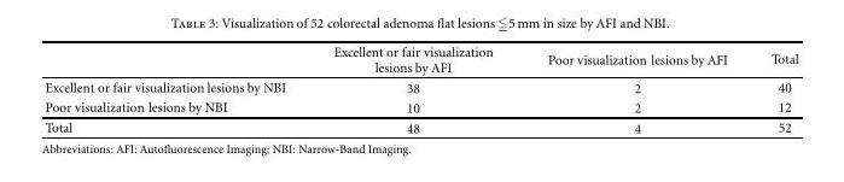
<table><thead><tr><td></td><td>Excellent or fair visualization lesions by AFI</td><td>Poor visualization lesions by AFI</td><td>Total</td></tr></thead><tbody><tr><td>Excellent or fair visualization lesions by NBI</td><td>38</td><td>2</td><td>40</td></tr><tr><td>Poor visualization lesions by NBI</td><td>10</td><td>2</td><td>12</td></tr><tr><td>Total</td><td>48</td><td>4</td><td>52</td></tr></tbody></table>